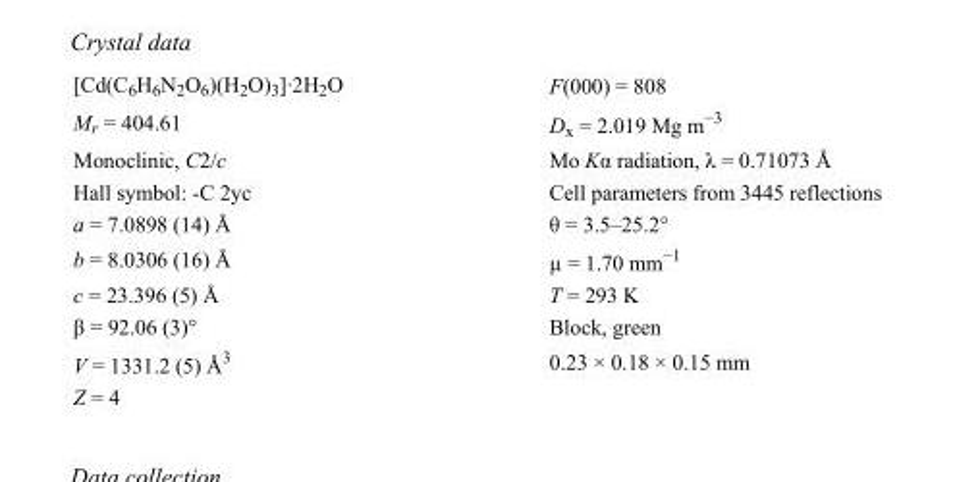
<table><tbody><tr><td>[Cd(C<sub>6</sub>H<sub>6</sub>N<sub>2</sub>O<sub>6</sub>)(H<sub>2</sub>O)<sub>3</sub>]·2H<sub>2</sub>O</td><td>F(000) = 808</td></tr><tr><td>M<sub>r</sub> = 404.61</td><td>D<sub>x</sub> = 2.019 Mg m<sup>−3</sup></td></tr><tr><td>Monoclinic, C2/c</td><td>Mo Kα radiation, λ = 0.71073 Å</td></tr><tr><td>Hall symbol: -C 2yc</td><td>Cell parameters from 3445 reflections</td></tr><tr><td>a = 7.0898 (14) Å</td><td>θ = 3.5–25.2°</td></tr><tr><td>b = 8.0306 (16) Å</td><td>µ = 1.70 mm<sup>−1</sup></td></tr><tr><td>c = 23.396 (5) Å</td><td>T = 293 K</td></tr><tr><td>β = 92.06 (3)°</td><td>Block, green</td></tr><tr><td>V = 1331.2 (5) Å<sup>3</sup></td><td>0.23 × 0.18 × 0.15 mm</td></tr><tr><td>Z = 4</td><td></td></tr></tbody></table>